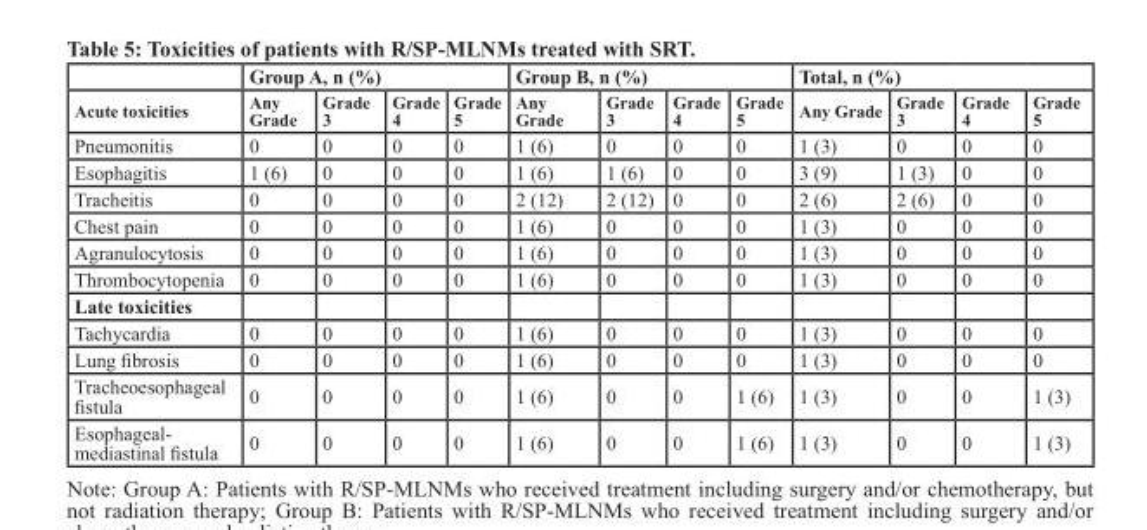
<table><thead><tr><td rowspan="2">Acute toxicities</td><td colspan="4">Group A, n (%)</td><td colspan="4">Group B, n (%)</td><td colspan="4">Total, n (%)</td></tr><tr><td>Any Grade</td><td>Grade 3</td><td>Grade 4</td><td>Grade 5</td><td>Any Grade</td><td>Grade 3</td><td>Grade 4</td><td>Grade 5</td><td>Any Grade</td><td>Grade 3</td><td>Grade 4</td><td>Grade 5</td></tr></thead><tbody><tr><td>Pneumonitis</td><td>0</td><td>0</td><td>0</td><td>0</td><td>1 (6)</td><td>0</td><td>0</td><td>0</td><td>1 (3)</td><td>0</td><td>0</td><td>0</td></tr><tr><td>Esophagitis</td><td>1 (6)</td><td>0</td><td>0</td><td>0</td><td>1 (6)</td><td>1 (6)</td><td>0</td><td>0</td><td>3 (9)</td><td>1 (3)</td><td>0</td><td>0</td></tr><tr><td>Tracheitis</td><td>0</td><td>0</td><td>0</td><td>0</td><td>2 (12)</td><td>2 (12)</td><td>0</td><td>0</td><td>2 (6)</td><td>2 (6)</td><td>0</td><td>0</td></tr><tr><td>Chest pain</td><td>0</td><td>0</td><td>0</td><td>0</td><td>1 (6)</td><td>0</td><td>0</td><td>0</td><td>1 (3)</td><td>0</td><td>0</td><td>0</td></tr><tr><td>Agranulocytosis</td><td>0</td><td>0</td><td>0</td><td>0</td><td>1 (6)</td><td>0</td><td>0</td><td>0</td><td>1 (3)</td><td>0</td><td>0</td><td>0</td></tr><tr><td>Thrombocytopenia</td><td>0</td><td>0</td><td>0</td><td>0</td><td>1 (6)</td><td>0</td><td>0</td><td>0</td><td>1 (3)</td><td>0</td><td>0</td><td>0</td></tr><tr><td colspan="13">Late toxicities</td></tr><tr><td>Tachycardia</td><td>0</td><td>0</td><td>0</td><td>0</td><td>1 (6)</td><td>0</td><td>0</td><td>0</td><td>1 (3)</td><td>0</td><td>0</td><td>0</td></tr><tr><td>Lung fibrosis</td><td>0</td><td>0</td><td>0</td><td>0</td><td>1 (6)</td><td>0</td><td>0</td><td>0</td><td>1 (3)</td><td>0</td><td>0</td><td>0</td></tr><tr><td>Tracheoesophageal fistula</td><td>0</td><td>0</td><td>0</td><td>0</td><td>1 (6)</td><td>0</td><td>0</td><td>1 (6)</td><td>1 (3)</td><td>0</td><td>0</td><td>1 (3)</td></tr><tr><td>Esophageal- mediastinal fistula</td><td>0</td><td>0</td><td>0</td><td>0</td><td>1 (6)</td><td>0</td><td>0</td><td>1 (6)</td><td>1 (3)</td><td>0</td><td>0</td><td>1 (3)</td></tr></tbody></table>